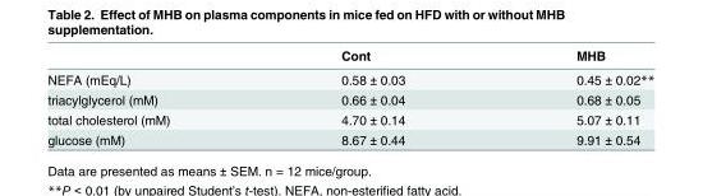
<table><thead><tr><td></td><td>Cont</td><td>MHB</td></tr></thead><tbody><tr><td>NEFA (mEq/L)</td><td>0.58 ± 0.03</td><td>0.45 ± 0.02**</td></tr><tr><td>triacylglycerol (mM)</td><td>0.66 ± 0.04</td><td>0.68 ± 0.05</td></tr><tr><td>total cholesterol (mM)</td><td>4.70 ± 0.14</td><td>5.07 ± 0.11</td></tr><tr><td>glucose (mM)</td><td>8.67 ± 0.44</td><td>9.91 ± 0.54</td></tr></tbody></table>